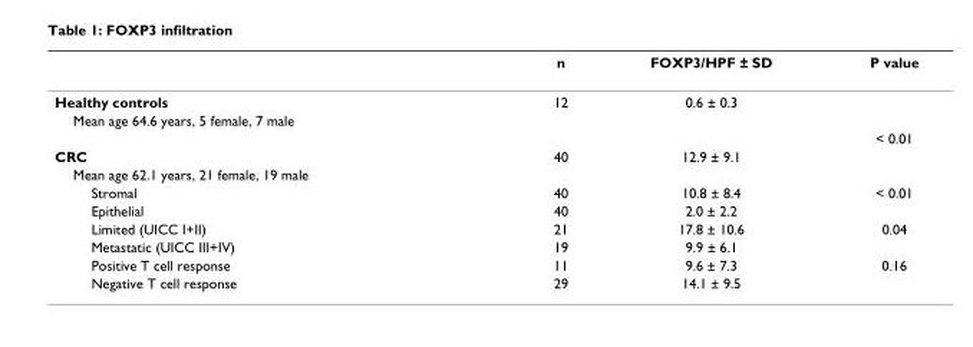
<table><thead><tr><td></td><td>n</td><td>FOXP3/HPF ± SD</td><td>P value</td></tr></thead><tbody><tr><td>Healthy controls</td><td>12</td><td>0.6 ± 0.3</td><td></td></tr><tr><td colspan="4">Mean age 64.6 years, 5 female, 7 male</td></tr><tr><td></td><td></td><td></td><td>&lt; 0.01</td></tr><tr><td>CRC</td><td>40</td><td>12.9 ± 9.1</td><td></td></tr><tr><td colspan="4">Mean age 62.1 years, 21 female, 19 male</td></tr><tr><td>Stromal</td><td>40</td><td>10.8 ± 8.4</td><td>&lt; 0.01</td></tr><tr><td>Epithelial</td><td>40</td><td>2.0 ± 2.2</td><td></td></tr><tr><td>Limited (UICC I+II)</td><td>21</td><td>17.8 ± 10.6</td><td>0.04</td></tr><tr><td>Metastatic (UICC III+IV)</td><td>19</td><td>9.9 ± 6.1</td><td></td></tr><tr><td>Positive T cell response</td><td>11</td><td>9.6 ± 7.3</td><td>0.16</td></tr><tr><td>Negative T cell response</td><td>29</td><td>14.1 ± 9.5</td><td></td></tr></tbody></table>